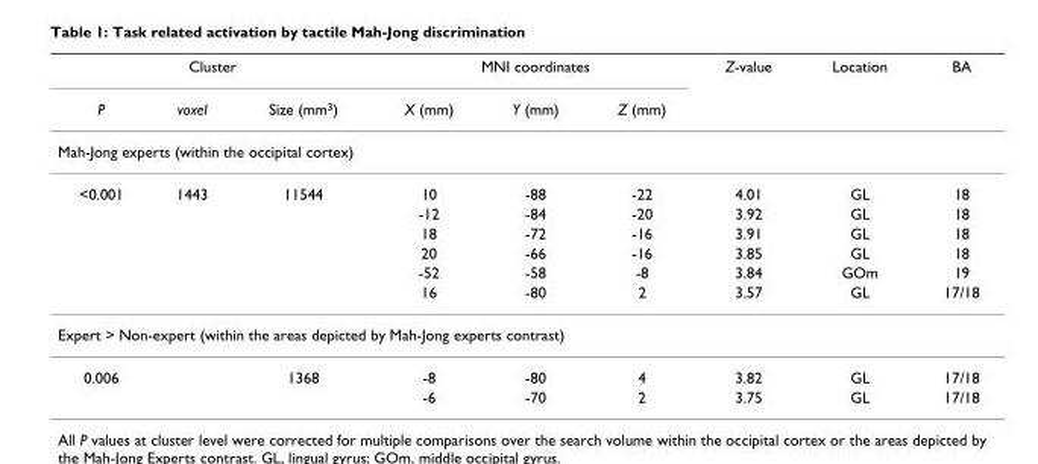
<table><thead><tr><td colspan="3">Cluster</td><td colspan="3">MNI coordinates</td><td rowspan="2">Z-value</td><td rowspan="2">Location</td><td rowspan="2">BA</td></tr><tr><td>P</td><td>voxel</td><td>Size (mm3)</td><td>X (mm)</td><td>Y (mm)</td><td>Z (mm)</td></tr></thead><tbody><tr><td colspan="9">Mah-Jong experts (within the occipital cortex)</td></tr><tr><td rowspan="6">&lt;0.001</td><td>1443</td><td>11544</td><td>10</td><td>-88</td><td>-22</td><td>4.01</td><td>GL</td><td>18</td></tr><tr><td></td><td></td><td>-12</td><td>-84</td><td>-20</td><td>3.92</td><td>GL</td><td>18</td></tr><tr><td></td><td></td><td>18</td><td>-72</td><td>-16</td><td>3.91</td><td>GL</td><td>18</td></tr><tr><td></td><td></td><td>20</td><td>-66</td><td>-16</td><td>3.85</td><td>GL</td><td>18</td></tr><tr><td></td><td></td><td>-52</td><td>-58</td><td>-8</td><td>3.84</td><td>GOm</td><td>19</td></tr><tr><td></td><td></td><td>16</td><td>-80</td><td>2</td><td>3.57</td><td>GL</td><td>17/18</td></tr><tr><td colspan="9">Expert &gt; Non-expert (within the areas depicted by Mah-Jong experts contrast)</td></tr><tr><td rowspan="2">0.006</td><td></td><td>1368</td><td>-8</td><td>-80</td><td>4</td><td>3.82</td><td>GL</td><td>17/18</td></tr><tr><td></td><td></td><td>-6</td><td>-70</td><td>2</td><td>3.75</td><td>GL</td><td>17/18</td></tr></tbody></table>